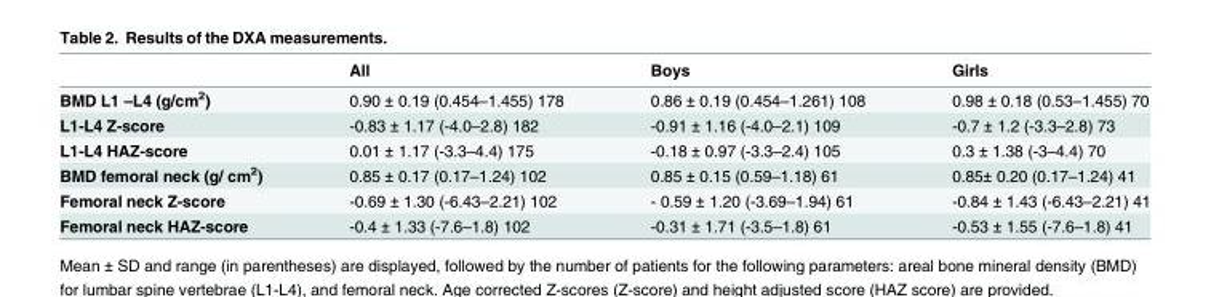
<table><thead><tr><td></td><td>All</td><td>Boys</td><td>Girls</td></tr></thead><tbody><tr><td>BMD L1 –L4 (g/cm<sup>2</sup>)</td><td>0.90 ± 0.19 (0.454–1.455) 178</td><td>0.86 ± 0.19 (0.454–1.261) 108</td><td>0.98 ± 0.18 (0.53–1.455) 70</td></tr><tr><td>L1-L4 Z-score</td><td>-0.83 ± 1.17 (-4.0–2.8) 182</td><td>-0.91 ± 1.16 (-4.0–2.1) 109</td><td>-0.7 ± 1.2 (-3.3–2.8) 73</td></tr><tr><td>L1-L4 HAZ-score</td><td>0.01 ± 1.17 (-3.3–4.4) 175</td><td>-0.18 ± 0.97 (-3.3–2.4) 105</td><td>0.3 ± 1.38 (-3–4.4) 70</td></tr><tr><td>BMD femoral neck (g/ cm<sup>2</sup>)</td><td>0.85 ± 0.17 (0.17–1.24) 102</td><td>0.85 ± 0.15 (0.59–1.18) 61</td><td>0.85± 0.20 (0.17–1.24) 41</td></tr><tr><td>Femoral neck Z-score</td><td>-0.69 ± 1.30 (-6.43–2.21) 102</td><td>- 0.59 ± 1.20 (-3.69–1.94) 61</td><td>-0.84 ± 1.43 (-6.43–2.21) 41</td></tr><tr><td>Femoral neck HAZ-score</td><td>-0.4 ± 1.33 (-7.6–1.8) 102</td><td>-0.31 ± 1.71 (-3.5–1.8) 61</td><td>-0.53 ± 1.55 (-7.6–1.8) 41</td></tr></tbody></table>